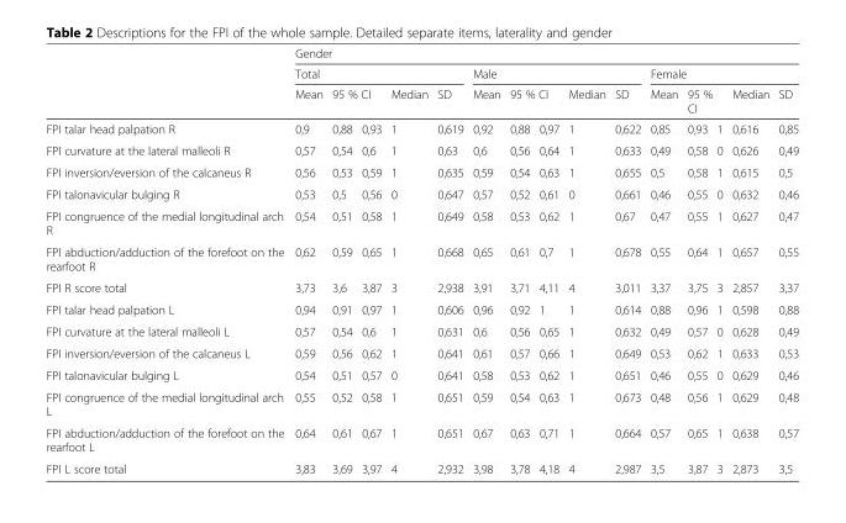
<table><thead><tr><td rowspan="4">FPI talar head palpation R</td><td colspan="15">Gender</td></tr><tr><td colspan="5">Total</td><td colspan="5">Male</td><td colspan="5">Female</td></tr><tr><td rowspan="2">Mean 0,9</td><td colspan="2">95 % CI</td><td rowspan="2">Median 1</td><td rowspan="2">SD 0,619</td><td rowspan="2">Mean 0,92</td><td colspan="2">95 % CI</td><td rowspan="2">Median 1</td><td rowspan="2">SD 0,622</td><td rowspan="2">Mean 0,85</td><td colspan="2">95 % CI</td><td rowspan="2">Median 0,616</td><td rowspan="2">SD 0,85</td></tr><tr><td>0,88</td><td>0,93</td><td>0,88</td><td>0,97</td><td>0,93</td><td>1</td></tr></thead><tbody><tr><td>FPI curvature at the lateral malleoli R</td><td>0,57</td><td>0,54</td><td>0,6</td><td>1</td><td>0,63</td><td>0,6</td><td>0,56</td><td>0,64</td><td>1</td><td>0,633</td><td>0,49</td><td>0,58</td><td>0</td><td>0,626</td><td>0,49</td></tr><tr><td>FPI inversion/eversion of the calcaneus R</td><td>0,56</td><td>0,53</td><td>0,59</td><td>1</td><td>0,635</td><td>0,59</td><td>0,54</td><td>0,63</td><td>1</td><td>0,655</td><td>0,5</td><td>0,58</td><td>1</td><td>0,615</td><td>0,5</td></tr><tr><td>FPI talonavicular bulging R</td><td>0,53</td><td>0,5</td><td>0,56</td><td>0</td><td>0,647</td><td>0,57</td><td>0,52</td><td>0,61</td><td>0</td><td>0,661</td><td>0,46</td><td>0,55</td><td>0</td><td>0,632</td><td>0,46</td></tr><tr><td>FPI congruence of the medial longitudinal arch R</td><td>0,54</td><td>0,51</td><td>0,58</td><td>1</td><td>0,649</td><td>0,58</td><td>0,53</td><td>0,62</td><td>1</td><td>0,67</td><td>0,47</td><td>0,55</td><td>1</td><td>0,627</td><td>0,47</td></tr><tr><td>FPI abduction/adduction of the forefoot on the rearfoot R</td><td>0,62</td><td>0,59</td><td>0,65</td><td>1</td><td>0,668</td><td>0,65</td><td>0,61</td><td>0,7</td><td>1</td><td>0,678</td><td>0,55</td><td>0,64</td><td>1</td><td>0,657</td><td>0,55</td></tr><tr><td>FPI R score total</td><td>3,73</td><td>3,6</td><td>3,87</td><td>3</td><td>2,938</td><td>3,91</td><td>3,71</td><td>4,11</td><td>4</td><td>3,011</td><td>3,37</td><td>3,75</td><td>3</td><td>2,857</td><td>3,37</td></tr><tr><td>FPI talar head palpation L</td><td>0,94</td><td>0,91</td><td>0,97</td><td>1</td><td>0,606</td><td>0,96</td><td>0,92</td><td>1</td><td>1</td><td>0,614</td><td>0,88</td><td>0,96</td><td>1</td><td>0,598</td><td>0,88</td></tr><tr><td>FPI curvature at the lateral malleoli L</td><td>0,57</td><td>0,54</td><td>0,6</td><td>1</td><td>0,631</td><td>0,6</td><td>0,56</td><td>0,65</td><td>1</td><td>0,632</td><td>0,49</td><td>0,57</td><td>0</td><td>0,628</td><td>0,49</td></tr><tr><td>FPI inversion/eversion of the calcaneus L</td><td>0,59</td><td>0,56</td><td>0,62</td><td>1</td><td>0,641</td><td>0,61</td><td>0,57</td><td>0,66</td><td>1</td><td>0,649</td><td>0,53</td><td>0,62</td><td>1</td><td>0,633</td><td>0,53</td></tr><tr><td>FPI talonavicular bulging L</td><td>0,54</td><td>0,51</td><td>0,57</td><td>0</td><td>0,641</td><td>0,58</td><td>0,53</td><td>0,62</td><td>1</td><td>0,651</td><td>0,46</td><td>0,55</td><td>0</td><td>0,629</td><td>0,46</td></tr><tr><td>FPI congruence of the medial longitudinal arch L</td><td>0,55</td><td>0,52</td><td>0,58</td><td>1</td><td>0,651</td><td>0,59</td><td>0,54</td><td>0,63</td><td>1</td><td>0,673</td><td>0,48</td><td>0,56</td><td>1</td><td>0,629</td><td>0,48</td></tr><tr><td>FPI abduction/adduction of the forefoot on the rearfoot L</td><td>0,64</td><td>0,61</td><td>0,67</td><td>1</td><td>0,651</td><td>0,67</td><td>0,63</td><td>0,71</td><td>1</td><td>0,664</td><td>0,57</td><td>0,65</td><td>1</td><td>0,638</td><td>0,57</td></tr><tr><td>FPI L score total</td><td>3,83</td><td>3,69</td><td>3,97</td><td>4</td><td>2,932</td><td>3,98</td><td>3,78</td><td>4,18</td><td>4</td><td>2,987</td><td>3,5</td><td>3,87</td><td>3</td><td>2,873</td><td>3,5</td></tr></tbody></table>